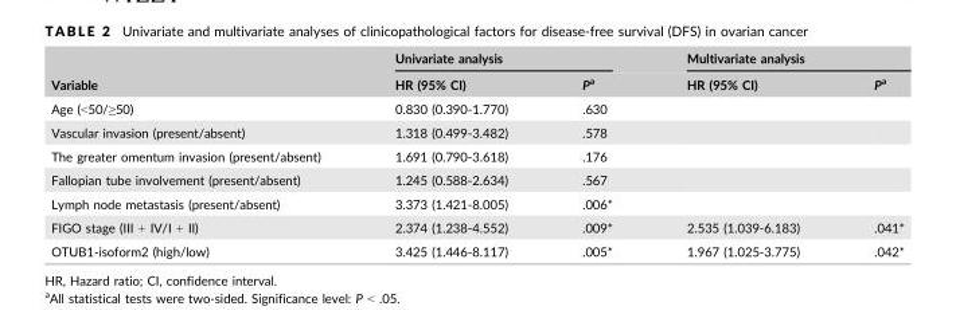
<table><thead><tr><td rowspan="2">Variable</td><td colspan="2">Univariate analysis</td><td colspan="2">Multivariate analysis</td></tr><tr><td>HR (95% CI)</td><td>Pa</td><td>HR (95% CI)</td><td>Pa</td></tr></thead><tbody><tr><td>Age (&lt;50/≥50)</td><td>0.830 (0.390-1.770)</td><td>.630</td><td></td><td></td></tr><tr><td>Vascular invasion (present/absent)</td><td>1.318 (0.499-3.482)</td><td>.578</td><td></td><td></td></tr><tr><td>The greater omentum invasion (present/absent)</td><td>1.691 (0.790-3.618)</td><td>.176</td><td></td><td></td></tr><tr><td>Fallopian tube involvement (present/absent)</td><td>1.245 (0.588-2.634)</td><td>.567</td><td></td><td></td></tr><tr><td>Lymph node metastasis (present/absent)</td><td>3.373 (1.421-8.005)</td><td>.006*</td><td></td><td></td></tr><tr><td>FIGO stage (III + IV/I + II)</td><td>2.374 (1.238-4.552)</td><td>.009*</td><td>2.535 (1.039-6.183)</td><td>.041*</td></tr><tr><td>OTUB1-isoform2 (high/low)</td><td>3.425 (1.446-8.117)</td><td>.005*</td><td>1.967 (1.025-3.775)</td><td>.042*</td></tr></tbody></table>